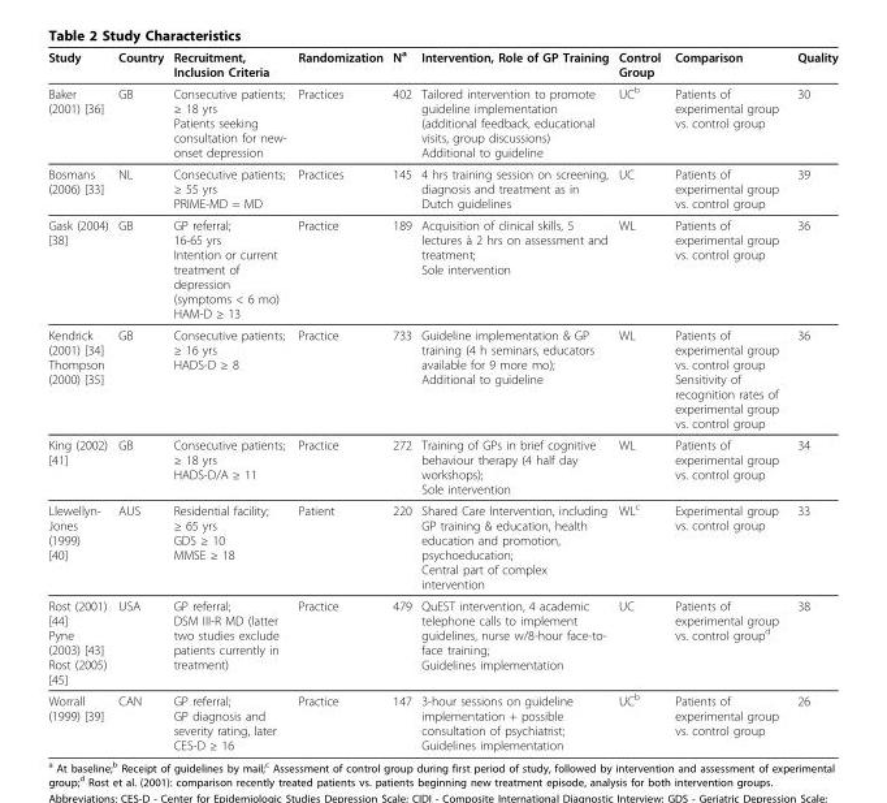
<table><thead><tr><td>Study</td><td>Country</td><td>Recruitment, Inclusion Criteria</td><td>Randomization</td><td>N<sup>a</sup></td><td>Intervention, Role of GP Training</td><td>Control Group</td><td>Comparison</td><td>Quality</td></tr></thead><tbody><tr><td>Baker (2001) [36]</td><td>GB</td><td>Consecutive patients; ≥ 18 yrs Patients seeking consultation for new- onset depression</td><td>Practices</td><td>402</td><td>Tailored intervention to promote guideline implementation (additional feedback, educational visits, group discussions) Additional to guideline</td><td>UC<sup>b</sup></td><td>Patients of experimental group vs. control group</td><td>30</td></tr><tr><td>Bosmans (2006) [33]</td><td>NL</td><td>Consecutive patients; ≥ 55 yrs PRIME-MD = MD</td><td>Practices</td><td>145</td><td>4 hrs training session on screening, diagnosis and treatment as in Dutch guidelines</td><td>UC</td><td>Patients of experimental group vs. control group</td><td>39</td></tr><tr><td>Gask (2004) [38]</td><td>GB</td><td>GP referral; 16-65 yrs Intention or current treatment of depression (symptoms &lt; 6 mo) HAM-D ≥ 13</td><td>Practice</td><td>189</td><td>Acquisition of clinical skills, 5 lectures à 2 hrs on assessment and treatment; Sole intervention</td><td>WL</td><td>Patients of experimental group vs. control group</td><td>36</td></tr><tr><td>Kendrick (2001) [34] Thompson (2000) [35]</td><td>GB</td><td>Consecutive patients; ≥ 16 yrs HADS-D ≥ 8</td><td>Practice</td><td>733</td><td>Guideline implementation &amp; GP training (4 h seminars, educators available for 9 more mo); Additional to guideline</td><td>WL</td><td>Patients of experimental group vs. control group Sensitivity of recognition rates of experimental group vs. control group</td><td>36</td></tr><tr><td>King (2002) [41]</td><td>GB</td><td>Consecutive patients; ≥ 18 yrs HADS-D/A ≥ 11</td><td>Practice</td><td>272</td><td>Training of GPs in brief cognitive behaviour therapy (4 half day workshops); Sole intervention</td><td>WL</td><td>Patients of experimental group vs. control group</td><td>34</td></tr><tr><td>Llewellyn- Jones (1999) [40]</td><td>AUS</td><td>Residential facility; ≥ 65 yrs GDS ≥ 10 MMSE ≥ 18</td><td>Patient</td><td>220</td><td>Shared Care Intervention, including GP training &amp; education, health education and promotion, psychoeducation; Central part of complex intervention</td><td>WL<sup>c</sup></td><td>Experimental group vs. control group</td><td>33</td></tr><tr><td>Rost (2001) [44] Pyne (2003) [43] Rost (2005) [45]</td><td>USA</td><td>GP referral; DSM III-R MD (latter two studies exclude patients currently in treatment)</td><td>Practice</td><td>479</td><td>QuEST intervention, 4 academic telephone calls to implement guidelines, nurse w/8-hour face-to- face training; Guidelines implementation</td><td>UC</td><td>Patients of experimental group vs. control group<sup>d</sup></td><td>38</td></tr><tr><td>Worrall (1999) [39]</td><td>CAN</td><td>GP referral; GP diagnosis and severity rating, later CES-D ≥ 16</td><td>Practice</td><td>147</td><td>3-hour sessions on guideline implementation + possible consultation of psychiatrist; Guidelines implementation</td><td>UC<sup>b</sup></td><td>Patients of experimental group vs. control group</td><td>26</td></tr></tbody></table>